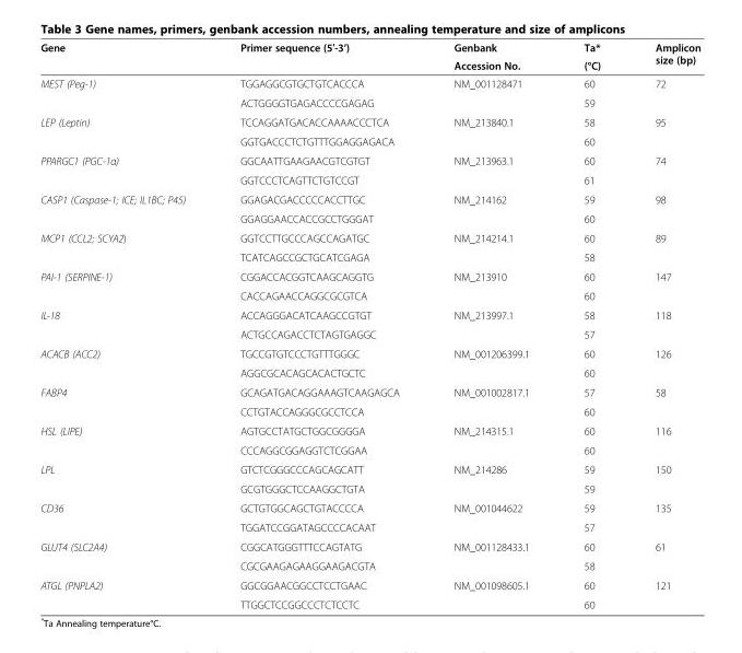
<table><thead><tr><td rowspan="2">Gene</td><td rowspan="2">Primer sequence (5′-3’)</td><td rowspan="2">Genbank Accession No.</td><td rowspan="2">Ta* (°C)</td><td rowspan="2">Amplicon size (bp)</td></tr><tr></tr></thead><tbody><tr><td rowspan="2">MEST (Peg-1)</td><td>TGGAGGCGTGCTGTCACCCA</td><td rowspan="2">NM_001128471</td><td>60</td><td rowspan="2">72</td></tr><tr><td>ACTGGGGTGAGACCCCGAGAG</td><td>59</td></tr><tr><td rowspan="2">LEP (Leptin)</td><td>TCCAGGATGACACCAAAACCCTCA</td><td rowspan="2">NM_213840.1</td><td>58</td><td rowspan="2">95</td></tr><tr><td>GGTGACCCTCTGTTTGGAGGAGACA</td><td>60</td></tr><tr><td rowspan="2">PPARGC1 (PGC-1α)</td><td>GGCAATTGAAGAACGTCGTGT</td><td rowspan="2">NM_213963.1</td><td>60</td><td rowspan="2">74</td></tr><tr><td>GGTCCCTCAGTTCTGTCCGT</td><td>61</td></tr><tr><td rowspan="2">CASP1 (Caspase-1; ICE; IL1BC; P45)</td><td>GGAGACGACCCCCACCTTGC</td><td rowspan="2">NM_214162</td><td>59</td><td rowspan="2">98</td></tr><tr><td>GGAGGAACCACCGCCTGGGAT</td><td>60</td></tr><tr><td rowspan="2">MCP1 (CCL2; SCYA2)</td><td>GGTCCTTGCCCAGCCAGATGC</td><td rowspan="2">NM_214214.1</td><td>60</td><td rowspan="2">89</td></tr><tr><td>TCATCAGCCGCTGCATCGAGA</td><td>58</td></tr><tr><td rowspan="2">PAI-1 (SERPINE-1)</td><td>CGGACCACGGTCAAGCAGGTG</td><td rowspan="2">NM_213910</td><td>60</td><td rowspan="2">147</td></tr><tr><td>CACCAGAACCAGGCGCGTCA</td><td>60</td></tr><tr><td rowspan="2">IL-18</td><td>ACCAGGGACATCAAGCCGTGT</td><td rowspan="2">NM_213997.1</td><td>58</td><td rowspan="2">118</td></tr><tr><td>ACTGCCAGACCTCTAGTGAGGC</td><td>57</td></tr><tr><td rowspan="2">ACACB (ACC2)</td><td>TGCCGTGTCCCTGTTTGGGC</td><td rowspan="2">NM_001206399.1</td><td>60</td><td rowspan="2">126</td></tr><tr><td>AGGCGCACAGCACACTGCTC</td><td>60</td></tr><tr><td rowspan="2">FABP4</td><td>GCAGATGACAGGAAAGTCAAGAGCA</td><td rowspan="2">NM_001002817.1</td><td>57</td><td rowspan="2">58</td></tr><tr><td>CCTGTACCAGGGCGCCTCCA</td><td>60</td></tr><tr><td rowspan="2">HSL (LIPE)</td><td>AGTGCCTATGCTGGCGGGGA</td><td rowspan="2">NM_214315.1</td><td>60</td><td rowspan="2">116</td></tr><tr><td>CCCAGGCGGAGGTCTCGGAA</td><td>60</td></tr><tr><td rowspan="2">LPL</td><td>GTCTCGGGCCCAGCAGCATT</td><td rowspan="2">NM_214286</td><td>59</td><td rowspan="2">150</td></tr><tr><td>GCGTGGGCTCCAAGGCTGTA</td><td>59</td></tr><tr><td rowspan="2">CD36</td><td>GCTGTGGCAGCTGTACCCCA</td><td rowspan="2">NM_001044622</td><td>59</td><td rowspan="2">135</td></tr><tr><td>TGGATCCGGATAGCCCCACAAT</td><td>57</td></tr><tr><td rowspan="2">GLUT4 (SLC2A4)</td><td>CGGCATGGGTTTCCAGTATG</td><td rowspan="2">NM_001128433.1</td><td>60</td><td rowspan="2">61</td></tr><tr><td>CGCGAAGAGAAGGAAGACGTA</td><td>58</td></tr><tr><td rowspan="2">ATGL (PNPLA2)</td><td>GGCGGAACGGCCTCCTGAAC</td><td rowspan="2">NM_001098605.1</td><td>60</td><td rowspan="2">121</td></tr><tr><td>TTGGCTCCGGCCCTCTCCTC</td><td>60</td></tr></tbody></table>